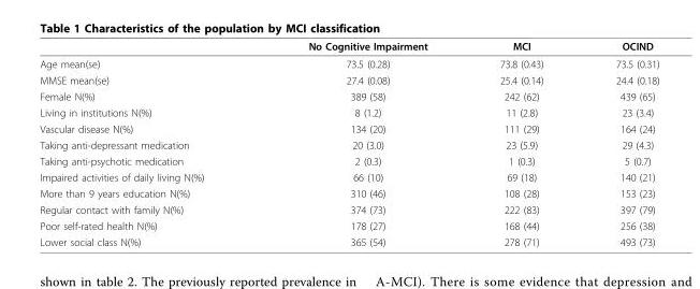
<table><thead><tr><td></td><td>No Cognitive Impairment</td><td>MCI</td><td>OCIND</td></tr></thead><tbody><tr><td>Age mean(se)</td><td>73.5 (0.28)</td><td>73.8 (0.43)</td><td>73.5 (0.31)</td></tr><tr><td>MMSE mean(se)</td><td>27.4 (0.08)</td><td>25.4 (0.14)</td><td>24.4 (0.18)</td></tr><tr><td>Female N(%)</td><td>389 (58)</td><td>242 (62)</td><td>439 (65)</td></tr><tr><td>Living in institutions N(%)</td><td>8 (1.2)</td><td>11 (2.8)</td><td>23 (3.4)</td></tr><tr><td>Vascular disease N(%)</td><td>134 (20)</td><td>111 (29)</td><td>164 (24)</td></tr><tr><td>Taking anti-depressant medication</td><td>20 (3.0)</td><td>23 (5.9)</td><td>29 (4.3)</td></tr><tr><td>Taking anti-psychotic medication</td><td>2 (0.3)</td><td>1 (0.3)</td><td>5 (0.7)</td></tr><tr><td>Impaired activities of daily living N(%)</td><td>66 (10)</td><td>69 (18)</td><td>140 (21)</td></tr><tr><td>More than 9 years education N(%)</td><td>310 (46)</td><td>108 (28)</td><td>153 (23)</td></tr><tr><td>Regular contact with family N(%)</td><td>374 (73)</td><td>222 (83)</td><td>397 (79)</td></tr><tr><td>Poor self-rated health N(%)</td><td>178 (27)</td><td>168 (44)</td><td>256 (38)</td></tr><tr><td>Lower social class N(%)</td><td>365 (54)</td><td>278 (71)</td><td>493 (73)</td></tr></tbody></table>